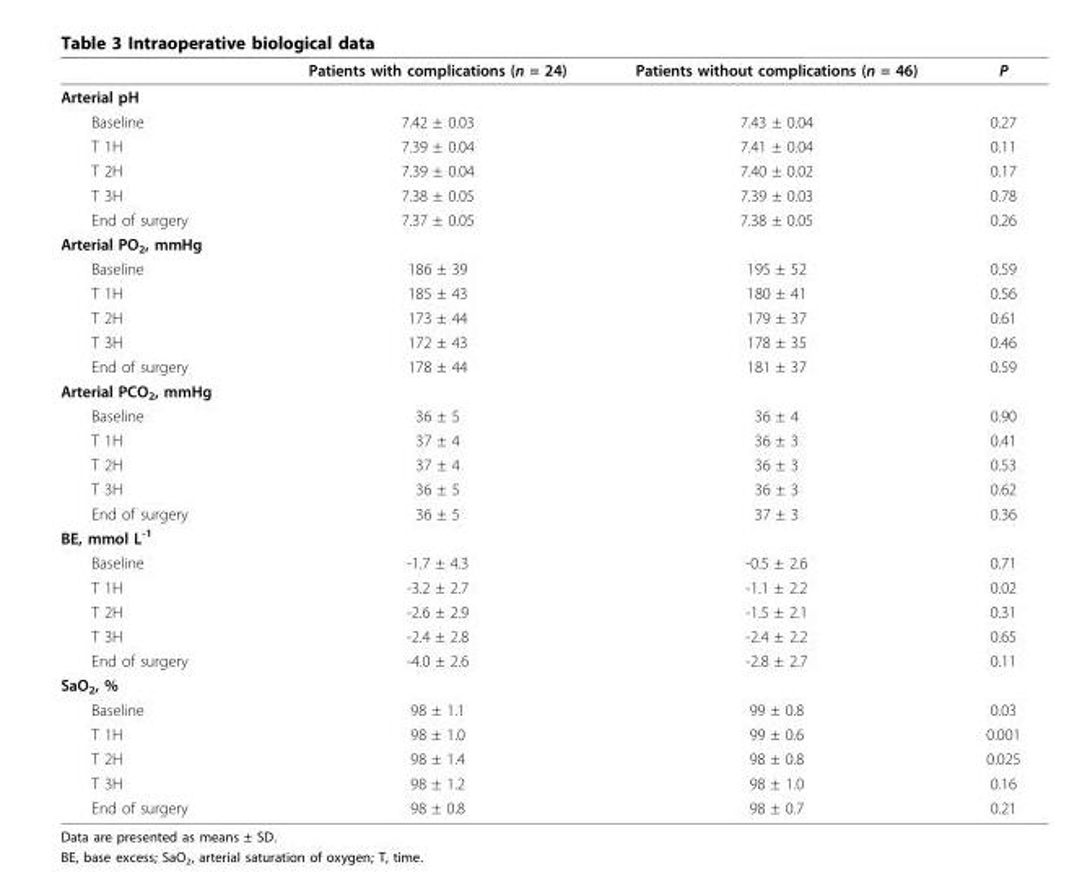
<table><thead><tr><td></td><td>Patients with complications (n = 24)</td><td>Patients without complications (n = 46)</td><td>P</td></tr></thead><tbody><tr><td colspan="4">Arterial pH</td></tr><tr><td>Baseline</td><td>7.42 ± 0.03</td><td>7.43 ± 0.04</td><td>0.27</td></tr><tr><td>T 1H</td><td>7.39 ± 0.04</td><td>7.41 ± 0.04</td><td>0.11</td></tr><tr><td>T 2H</td><td>7.39 ± 0.04</td><td>7.40 ± 0.02</td><td>0.17</td></tr><tr><td>T 3H</td><td>7.38 ± 0.05</td><td>7.39 ± 0.03</td><td>0.78</td></tr><tr><td>End of surgery</td><td>7.37 ± 0.05</td><td>7.38 ± 0.05</td><td>0.26</td></tr><tr><td colspan="4">Arterial PO<sub>2</sub>, mmHg</td></tr><tr><td>Baseline</td><td>186 ± 39</td><td>195 ± 52</td><td>0.59</td></tr><tr><td>T 1H</td><td>185 ± 43</td><td>180 ± 41</td><td>0.56</td></tr><tr><td>T 2H</td><td>173 ± 44</td><td>179 ± 37</td><td>0.61</td></tr><tr><td>T 3H</td><td>172 ± 43</td><td>178 ± 35</td><td>0.46</td></tr><tr><td>End of surgery</td><td>178 ± 44</td><td>181 ± 37</td><td>0.59</td></tr><tr><td colspan="4">Arterial PCO<sub>2</sub>, mmHg</td></tr><tr><td>Baseline</td><td>36 ± 5</td><td>36 ± 4</td><td>0.90</td></tr><tr><td>T 1H</td><td>37 ± 4</td><td>36 ± 3</td><td>0.41</td></tr><tr><td>T 2H</td><td>37 ± 4</td><td>36 ± 3</td><td>0.53</td></tr><tr><td>T 3H</td><td>36 ± 5</td><td>36 ± 3</td><td>0.62</td></tr><tr><td>End of surgery</td><td>36 ± 5</td><td>37 ± 3</td><td>0.36</td></tr><tr><td colspan="4">BE, mmol L<sup>-1</sup></td></tr><tr><td>Baseline</td><td>-1.7 ± 4.3</td><td>-0.5 ± 2.6</td><td>0.71</td></tr><tr><td>T 1H</td><td>-3.2 ± 2.7</td><td>-1.1 ± 2.2</td><td>0.02</td></tr><tr><td>T 2H</td><td>-2.6 ± 2.9</td><td>-1.5 ± 2.1</td><td>0.31</td></tr><tr><td>T 3H</td><td>-2.4 ± 2.8</td><td>-2.4 ± 2.2</td><td>0.65</td></tr><tr><td>End of surgery</td><td>-4.0 ± 2.6</td><td>-2.8 ± 2.7</td><td>0.11</td></tr><tr><td colspan="4">SaO<sub>2</sub>, %</td></tr><tr><td>Baseline</td><td>98 ± 1.1</td><td>99 ± 0.8</td><td>0.03</td></tr><tr><td>T 1H</td><td>98 ± 1.0</td><td>99 ± 0.6</td><td>0.001</td></tr><tr><td>T 2H</td><td>98 ± 1.4</td><td>98 ± 0.8</td><td>0.025</td></tr><tr><td>T 3H</td><td>98 ± 1.2</td><td>98 ± 1.0</td><td>0.16</td></tr><tr><td>End of surgery</td><td>98 ± 0.8</td><td>98 ± 0.7</td><td>0.21</td></tr></tbody></table>